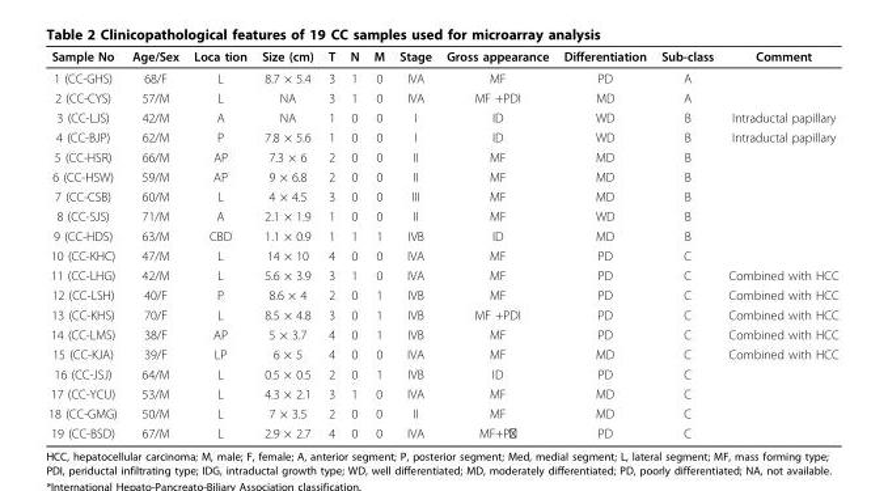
<table><thead><tr><td>Sample No</td><td>Age/Sex</td><td>Loca tion</td><td>Size (cm)</td><td>T</td><td>N</td><td>M</td><td>Stage</td><td>Gross appearance</td><td>Differentiation</td><td>Sub-class</td><td>Comment</td></tr></thead><tbody><tr><td>1 (CC-GHS)</td><td>68/F</td><td>L</td><td>8.7 × 5.4</td><td>3</td><td>1</td><td>0</td><td>IVA</td><td>MF</td><td>PD</td><td>A</td><td></td></tr><tr><td>2 (CC-CYS)</td><td>57/M</td><td>L</td><td>NA</td><td>3</td><td>1</td><td>0</td><td>IVA</td><td>MF +PDI</td><td>MD</td><td>A</td><td></td></tr><tr><td>3 (CC-LJS)</td><td>42/M</td><td>A</td><td>NA</td><td>1</td><td>0</td><td>0</td><td>I</td><td>ID</td><td>WD</td><td>B</td><td>Intraductal papillary</td></tr><tr><td>4 (CC-BJP)</td><td>62/M</td><td>P</td><td>7.8 × 5.6</td><td>1</td><td>0</td><td>0</td><td>I</td><td>ID</td><td>WD</td><td>B</td><td>Intraductal papillary</td></tr><tr><td>5 (CC-HSR)</td><td>66/M</td><td>AP</td><td>7.3 × 6</td><td>2</td><td>0</td><td>0</td><td>II</td><td>MF</td><td>MD</td><td>B</td><td></td></tr><tr><td>6 (CC-HSW)</td><td>59/M</td><td>AP</td><td>9 × 6.8</td><td>2</td><td>0</td><td>0</td><td>II</td><td>MF</td><td>MD</td><td>B</td><td></td></tr><tr><td>7 (CC-CSB)</td><td>60/M</td><td>L</td><td>4 × 4.5</td><td>3</td><td>0</td><td>0</td><td>III</td><td>MF</td><td>MD</td><td>B</td><td></td></tr><tr><td>8 (CC-SJS)</td><td>71/M</td><td>A</td><td>2.1 × 1.9</td><td>1</td><td>0</td><td>0</td><td>II</td><td>MF</td><td>WD</td><td>B</td><td></td></tr><tr><td>9 (CC-HDS)</td><td>63/M</td><td>CBD</td><td>1.1 × 0.9</td><td>1</td><td>1</td><td>1</td><td>IVB</td><td>ID</td><td>MD</td><td>B</td><td></td></tr><tr><td>10 (CC-KHC)</td><td>47/M</td><td>L</td><td>14 × 10</td><td>4</td><td>0</td><td>0</td><td>IVA</td><td>MF</td><td>PD</td><td>C</td><td></td></tr><tr><td>11 (CC-LHG)</td><td>42/M</td><td>L</td><td>5.6 × 3.9</td><td>3</td><td>1</td><td>0</td><td>IVA</td><td>MF</td><td>PD</td><td>C</td><td>Combined with HCC</td></tr><tr><td>12 (CC-LSH)</td><td>40/F</td><td>P</td><td>8.6 × 4</td><td>2</td><td>0</td><td>1</td><td>IVB</td><td>MF</td><td>PD</td><td>C</td><td>Combined with HCC</td></tr><tr><td>13 (CC-KHS)</td><td>70/F</td><td>L</td><td>8.5 × 4.8</td><td>3</td><td>0</td><td>1</td><td>IVB</td><td>MF +PDI</td><td>PD</td><td>C</td><td>Combined with HCC</td></tr><tr><td>14 (CC-LMS)</td><td>38/F</td><td>AP</td><td>5 × 3.7</td><td>4</td><td>0</td><td>1</td><td>IVB</td><td>MF</td><td>PD</td><td>C</td><td>Combined with HCC</td></tr><tr><td>15 (CC-KJA)</td><td>39/F</td><td>LP</td><td>6 × 5</td><td>4</td><td>0</td><td>0</td><td>IVA</td><td>MF</td><td>MD</td><td>C</td><td>Combined with HCC</td></tr><tr><td>16 (CC-JSJ)</td><td>64/M</td><td>L</td><td>0.5 × 0.5</td><td>2</td><td>0</td><td>1</td><td>IVB</td><td>ID</td><td>PD</td><td>C</td><td></td></tr><tr><td>17 (CC-YCU)</td><td>53/M</td><td>L</td><td>4.3 × 2.1</td><td>3</td><td>1</td><td>0</td><td>IVA</td><td>MF</td><td>MD</td><td>C</td><td></td></tr><tr><td>18 (CC-GMG)</td><td>50/M</td><td>L</td><td>7 × 3.5</td><td>2</td><td>0</td><td>0</td><td>II</td><td>MF</td><td>MD</td><td>C</td><td></td></tr><tr><td>19 (CC-BSD)</td><td>67/M</td><td>L</td><td>2.9 × 2.7</td><td>4</td><td>0</td><td>0</td><td>IVA</td><td>MF+P야</td><td>PD</td><td>C</td><td></td></tr></tbody></table>